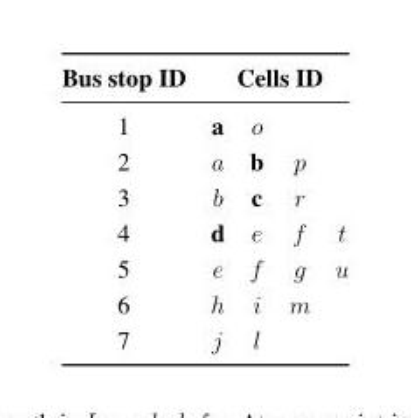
<table><thead><tr><td rowspan="2">Bus stop ID 1</td><td colspan="4">Cells ID</td></tr><tr><td>a</td><td>o</td><td></td><td></td></tr></thead><tbody><tr><td>2</td><td>a</td><td>b</td><td>p</td><td></td></tr><tr><td>3</td><td>b</td><td>c</td><td>r</td><td></td></tr><tr><td>4</td><td>d</td><td>e</td><td>f</td><td>t</td></tr><tr><td>5</td><td>e</td><td>f</td><td>g</td><td>u</td></tr><tr><td>6</td><td>h</td><td>i</td><td>m</td><td></td></tr><tr><td>7</td><td>j</td><td>l</td><td></td><td></td></tr></tbody></table>